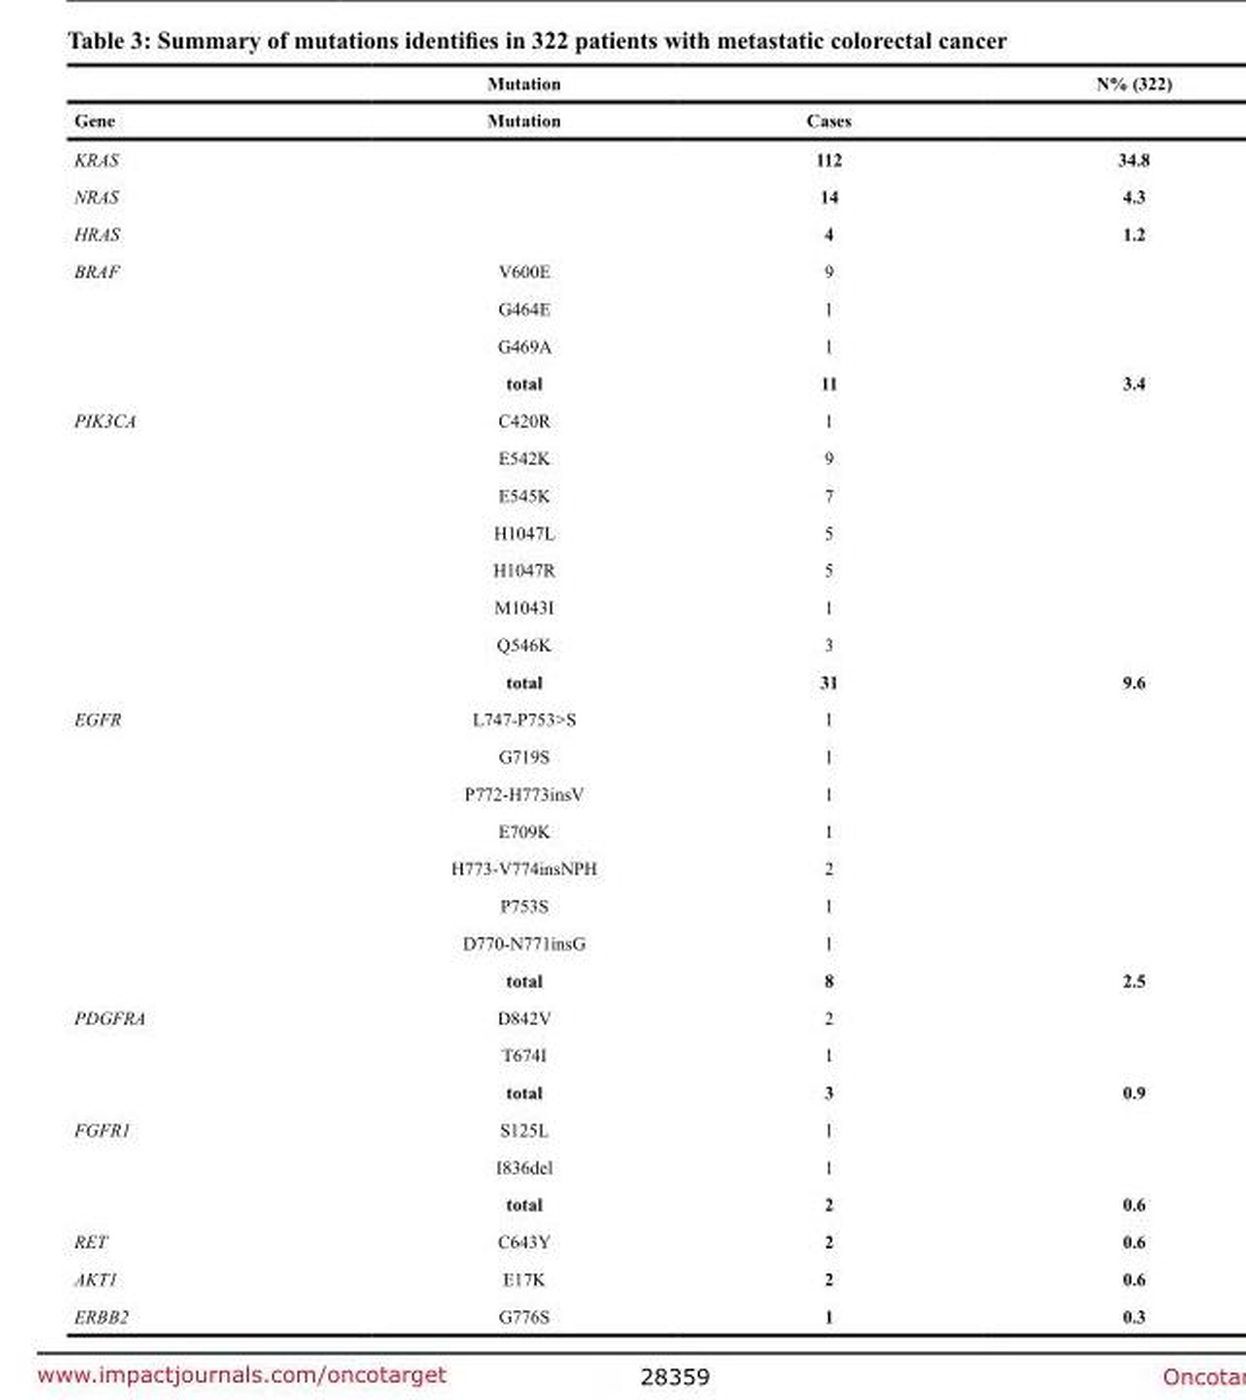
<table><thead><tr><td rowspan="2">Gene</td><td rowspan="2">Mutation Mutation</td><td rowspan="2">Cases</td><td rowspan="2">N% (322)</td></tr><tr></tr></thead><tbody><tr><td>KRAS</td><td></td><td>112</td><td>34.8</td></tr><tr><td>NRAS</td><td></td><td>14</td><td>4.3</td></tr><tr><td>HRAS</td><td></td><td>4</td><td>1.2</td></tr><tr><td rowspan="4">BRAF</td><td>V600E</td><td>9</td><td></td></tr><tr><td>G464E</td><td>1</td><td></td></tr><tr><td>G469A</td><td>1</td><td></td></tr><tr><td>total</td><td>11</td><td>3.4</td></tr><tr><td rowspan="8">PIK3CA</td><td>C420R</td><td>1</td><td></td></tr><tr><td>E542K</td><td>9</td><td></td></tr><tr><td>E545K</td><td>7</td><td></td></tr><tr><td>H1047L</td><td>5</td><td></td></tr><tr><td>H1047R</td><td>5</td><td></td></tr><tr><td>M1043I</td><td>1</td><td></td></tr><tr><td>Q546K</td><td>3</td><td></td></tr><tr><td>total</td><td>31</td><td>9.6</td></tr><tr><td rowspan="8">EGFR</td><td>L747-P753&gt;S</td><td>1</td><td></td></tr><tr><td>G719S</td><td>1</td><td></td></tr><tr><td>P772-H773insV</td><td>1</td><td></td></tr><tr><td>E709K</td><td>1</td><td></td></tr><tr><td>H773-V774insNPH</td><td>2</td><td></td></tr><tr><td>P753S</td><td>1</td><td></td></tr><tr><td>D770-N771insG</td><td>1</td><td></td></tr><tr><td>total</td><td>8</td><td>2.5</td></tr><tr><td rowspan="3">PDGFRA</td><td>D842V</td><td>2</td><td></td></tr><tr><td>T674I</td><td>1</td><td></td></tr><tr><td>total</td><td>3</td><td>0.9</td></tr><tr><td rowspan="3">FGFR1</td><td>S125L</td><td>1</td><td></td></tr><tr><td>I836del</td><td>1</td><td></td></tr><tr><td>total</td><td>2</td><td>0.6</td></tr><tr><td>RET</td><td>C643Y</td><td>2</td><td>0.6</td></tr><tr><td>AKT1</td><td>E17K</td><td>2</td><td>0.6</td></tr><tr><td>ERBB2</td><td>G776S</td><td>1</td><td>0.3</td></tr></tbody></table>